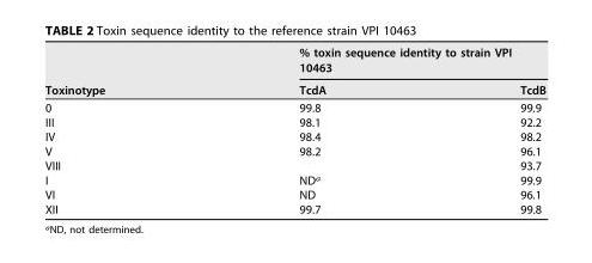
<table><thead><tr><td rowspan="2">Toxinotype</td><td colspan="2">% toxin sequence identity to strain VPI 10463</td></tr><tr><td>TcdA</td><td>TcdB</td></tr></thead><tbody><tr><td>0</td><td>99.8</td><td>99.9</td></tr><tr><td>III</td><td>98.1</td><td>92.2</td></tr><tr><td>IV</td><td>98.4</td><td>98.2</td></tr><tr><td>V</td><td>98.2</td><td>96.1</td></tr><tr><td>VIII</td><td></td><td>93.7</td></tr><tr><td>I</td><td>ND<sup>a</sup></td><td>99.9</td></tr><tr><td>VI</td><td>ND</td><td>96.1</td></tr><tr><td>XII</td><td>99.7</td><td>99.8</td></tr></tbody></table>